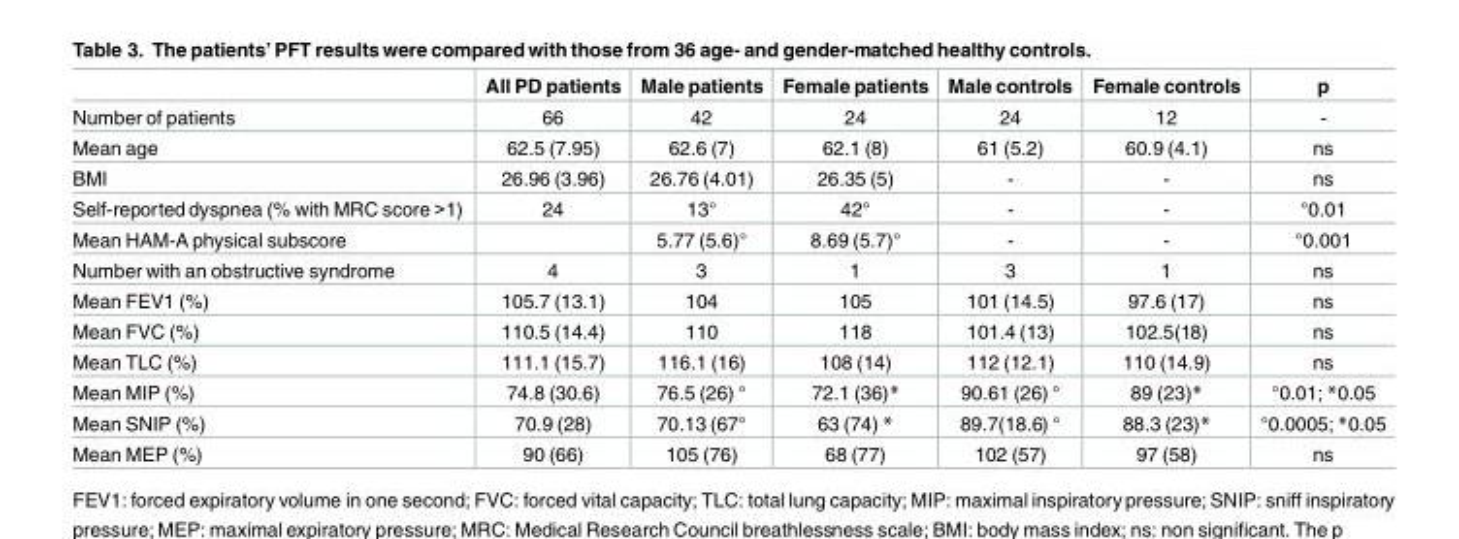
<table><thead><tr><td></td><td>All PD patients</td><td>Male patients</td><td>Female patients</td><td>Male controls</td><td>Female controls</td><td>p</td></tr></thead><tbody><tr><td>Number of patients</td><td>66</td><td>42</td><td>24</td><td>24</td><td>12</td><td>-</td></tr><tr><td>Mean age</td><td>62.5 (7.95)</td><td>62.6 (7)</td><td>62.1 (8)</td><td>61 (5.2)</td><td>60.9 (4.1)</td><td>ns</td></tr><tr><td>BMI</td><td>26.96 (3.96)</td><td>26.76 (4.01)</td><td>26.35 (5)</td><td>-</td><td>-</td><td>ns</td></tr><tr><td>Self-reported dyspnea (% with MRC score &gt;1)</td><td>24</td><td>13°</td><td>42°</td><td>-</td><td>-</td><td>°0.01</td></tr><tr><td>Mean HAM-A physical subscore</td><td></td><td>5.77 (5.6)°</td><td>8.69 (5.7)°</td><td>-</td><td>-</td><td>°0.001</td></tr><tr><td>Number with an obstructive syndrome</td><td>4</td><td>3</td><td>1</td><td>3</td><td>1</td><td>ns</td></tr><tr><td>Mean FEV1 (%)</td><td>105.7 (13.1)</td><td>104</td><td>105</td><td>101 (14.5)</td><td>97.6 (17)</td><td>ns</td></tr><tr><td>Mean FVC (%)</td><td>110.5 (14.4)</td><td>110</td><td>118</td><td>101.4 (13)</td><td>102.5(18)</td><td>ns</td></tr><tr><td>Mean TLC (%)</td><td>111.1 (15.7)</td><td>116.1 (16)</td><td>108 (14)</td><td>112 (12.1)</td><td>110 (14.9)</td><td>ns</td></tr><tr><td>Mean MIP (%)</td><td>74.8 (30.6)</td><td>76.5 (26) °</td><td>72.1 (36)*</td><td>90.61 (26) °</td><td>89 (23)*</td><td>°0.01; *0.05</td></tr><tr><td>Mean SNIP (%)</td><td>70.9 (28)</td><td>70.13 (67°</td><td>63 (74) *</td><td>89.7(18.6) °</td><td>88.3 (23)*</td><td>°0.0005; *0.05</td></tr><tr><td>Mean MEP (%)</td><td>90 (66)</td><td>105 (76)</td><td>68 (77)</td><td>102 (57)</td><td>97 (58)</td><td>ns</td></tr></tbody></table>